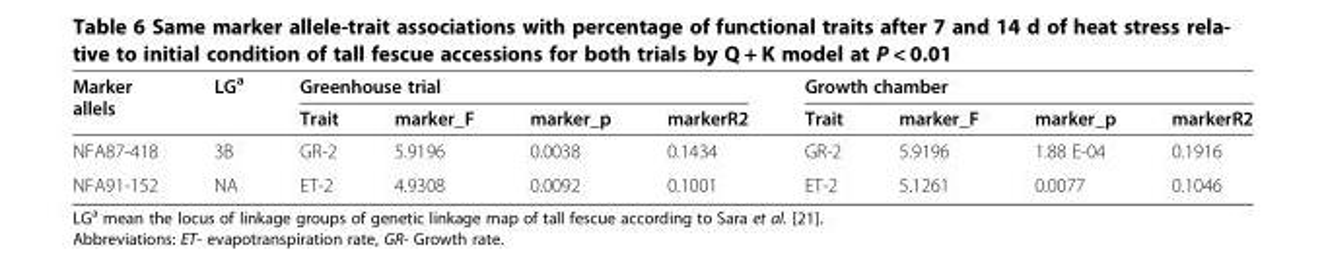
<table><thead><tr><td rowspan="2">Marker allels</td><td rowspan="2">LG<sup>a</sup></td><td colspan="4">Greenhouse trial</td><td colspan="4">Growth chamber</td></tr><tr><td>Trait</td><td>marker_F</td><td>marker_p</td><td>markerR2</td><td>Trait</td><td>marker_F</td><td>marker_p</td><td>markerR2</td></tr></thead><tbody><tr><td>NFA87-418</td><td>3B</td><td>GR-2</td><td>5.9196</td><td>0.0038</td><td>0.1434</td><td>GR-2</td><td>5.9196</td><td>1.88 E-04</td><td>0.1916</td></tr><tr><td>NFA91-152</td><td>NA</td><td>ET-2</td><td>4.9308</td><td>0.0092</td><td>0.1001</td><td>ET-2</td><td>5.1261</td><td>0.0077</td><td>0.1046</td></tr></tbody></table>